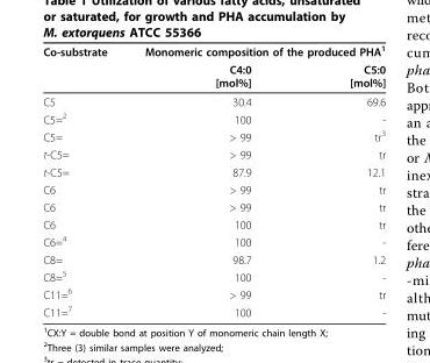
<table><thead><tr><td rowspan="2">Co-substrate</td><td colspan="2">Monomeric composition of the produced PHA<sup>1</sup></td></tr><tr><td>C4:0 [mol%]</td><td>C5:0 [mol%]</td></tr></thead><tbody><tr><td>C5</td><td>30.4</td><td>69.6</td></tr><tr><td>C5=<sup>2</sup></td><td>100</td><td>-</td></tr><tr><td>C5=</td><td>&gt; 99</td><td>tr<sup>3</sup></td></tr><tr><td>t-C5=</td><td>&gt; 99</td><td>tr</td></tr><tr><td>t-C5=</td><td>87.9</td><td>12.1</td></tr><tr><td>C6</td><td>&gt; 99</td><td>tr</td></tr><tr><td>C6</td><td>&gt; 99</td><td>tr</td></tr><tr><td>C6</td><td>100</td><td>tr</td></tr><tr><td>C6=<sup>4</sup></td><td>100</td><td>-</td></tr><tr><td>C8=</td><td>98.7</td><td>1.2</td></tr><tr><td>C8=<sup>5</sup></td><td>100</td><td>-</td></tr><tr><td>C11=<sup>6</sup></td><td>&gt; 99</td><td>tr</td></tr><tr><td>C11=<sup>7</sup></td><td>100</td><td>-</td></tr></tbody></table>